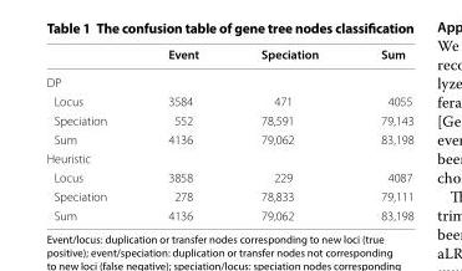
<table><thead><tr><td></td><td>Event</td><td>Speciation</td><td>Sum</td></tr></thead><tbody><tr><td colspan="4">DP</td></tr><tr><td>Locus</td><td>3584</td><td>471</td><td>4055</td></tr><tr><td>Speciation</td><td>552</td><td>78,591</td><td>79,143</td></tr><tr><td>Sum</td><td>4136</td><td>79,062</td><td>83,198</td></tr><tr><td colspan="4">Heuristic</td></tr><tr><td>Locus</td><td>3858</td><td>229</td><td>4087</td></tr><tr><td>Speciation</td><td>278</td><td>78,833</td><td>79,111</td></tr><tr><td>Sum</td><td>4136</td><td>79,062</td><td>83,198</td></tr></tbody></table>